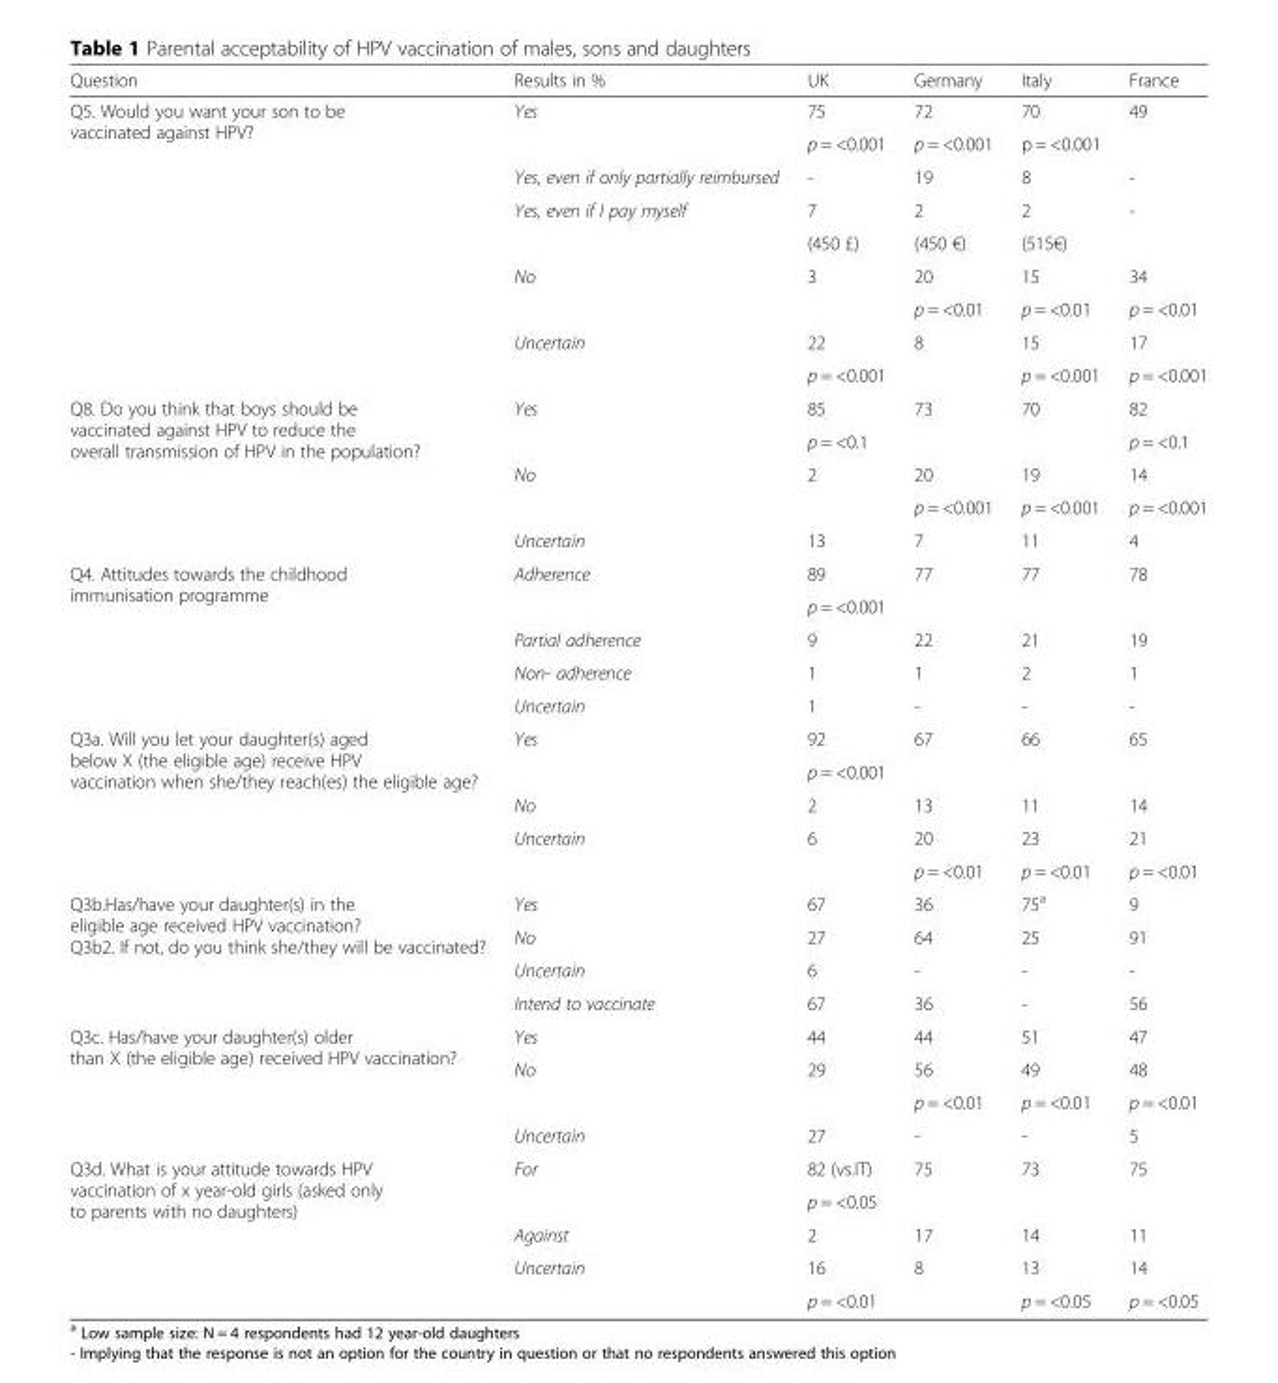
<table><thead><tr><td>Question</td><td>Results in %</td><td>UK</td><td>Germany</td><td>Italy</td><td>France</td></tr></thead><tbody><tr><td rowspan="9">Q5. Would you want your son to be vaccinated against HPV?</td><td rowspan="2">Yes</td><td>75</td><td>72</td><td>70</td><td rowspan="2">49</td></tr><tr><td>p = &lt;0.001</td><td>p = &lt;0.001</td><td>p = &lt;0.001</td></tr><tr><td>Yes, even if only partially reimbursed</td><td>-</td><td>19</td><td>8</td><td>-</td></tr><tr><td rowspan="2">Yes, even if I pay myself</td><td>7</td><td>2</td><td>2</td><td rowspan="2">-</td></tr><tr><td>(450 £)</td><td>(450 €)</td><td>(515€)</td></tr><tr><td rowspan="2">No</td><td rowspan="2">3</td><td>20</td><td>15</td><td>34</td></tr><tr><td>p = &lt;0.01</td><td>p = &lt;0.01</td><td>p = &lt;0.01</td></tr><tr><td rowspan="2">Uncertain</td><td>22</td><td>8</td><td>15</td><td>17</td></tr><tr><td>p = &lt;0.001</td><td></td><td>p = &lt;0.001</td><td>p = &lt;0.001</td></tr><tr><td rowspan="5">Q8. Do you think that boys should be vaccinated against HPV to reduce the overall transmission of HPV in the population?</td><td rowspan="2">Yes</td><td>85</td><td>73</td><td>70</td><td>82</td></tr><tr><td>p = &lt;0.1</td><td></td><td></td><td>p = &lt;0.1</td></tr><tr><td rowspan="2">No</td><td>2</td><td>20</td><td>19</td><td>14</td></tr><tr><td></td><td>p = &lt;0.001</td><td>p = &lt;0.001</td><td>p = &lt;0.001</td></tr><tr><td>Uncertain</td><td>13</td><td>7</td><td>11</td><td>4</td></tr><tr><td rowspan="5">Q4. Attitudes towards the childhood immunisation programme</td><td rowspan="2">Adherence</td><td>89</td><td>77</td><td>77</td><td>78</td></tr><tr><td>p = &lt;0.001</td><td></td><td></td><td></td></tr><tr><td>Partial adherence</td><td>9</td><td>22</td><td>21</td><td>19</td></tr><tr><td>Non- adherence</td><td>1</td><td>1</td><td>2</td><td>1</td></tr><tr><td>Uncertain</td><td>1</td><td>-</td><td>-</td><td>-</td></tr><tr><td rowspan="5">Q3a. Will you let your daughter(s) aged below X (the eligible age) receive HPV vaccination when she/they reach(es) the eligible age?</td><td rowspan="2">Yes</td><td>92</td><td>67</td><td>66</td><td>65</td></tr><tr><td>p = &lt;0.001</td><td></td><td></td><td></td></tr><tr><td>No</td><td>2</td><td>13</td><td>11</td><td>14</td></tr><tr><td rowspan="2">Uncertain</td><td>6</td><td>20</td><td>23</td><td>21</td></tr><tr><td></td><td>p = &lt;0.01</td><td>p = &lt;0.01</td><td>p = &lt;0.01</td></tr><tr><td rowspan="4">Q3b.Has/have your daughter(s) in the eligible age received HPV vaccination? Q3b2. If not, do you think she/they will be vaccinated?</td><td>Yes</td><td>67</td><td>36</td><td>75<sup>a</sup></td><td>9</td></tr><tr><td>No</td><td>27</td><td>64</td><td>25</td><td>91</td></tr><tr><td>Uncertain</td><td>6</td><td>-</td><td>-</td><td>-</td></tr><tr><td>Intend to vaccinate</td><td>67</td><td>36</td><td>-</td><td>56</td></tr><tr><td rowspan="4">Q3c. Has/have your daughter(s) older than X (the eligible age) received HPV vaccination?</td><td>Yes</td><td>44</td><td>44</td><td>51</td><td>47</td></tr><tr><td rowspan="2">No</td><td>29</td><td>56</td><td>49</td><td>48</td></tr><tr><td></td><td>p = &lt;0.01</td><td>p = &lt;0.01</td><td>p = &lt;0.01</td></tr><tr><td>Uncertain</td><td>27</td><td>-</td><td>-</td><td>5</td></tr><tr><td rowspan="5">Q3d. What is your attitude towards HPV vaccination of x year-old girls (asked only to parents with no daughters)</td><td rowspan="2">For</td><td>82 (vs.IT)</td><td>75</td><td>73</td><td>75</td></tr><tr><td>p = &lt;0.05</td><td></td><td></td><td></td></tr><tr><td>Against</td><td>2</td><td>17</td><td>14</td><td>11</td></tr><tr><td rowspan="2">Uncertain</td><td>16</td><td>8</td><td>13</td><td>14</td></tr><tr><td>p = &lt;0.01</td><td></td><td>p = &lt;0.05</td><td>p = &lt;0.05</td></tr></tbody></table>